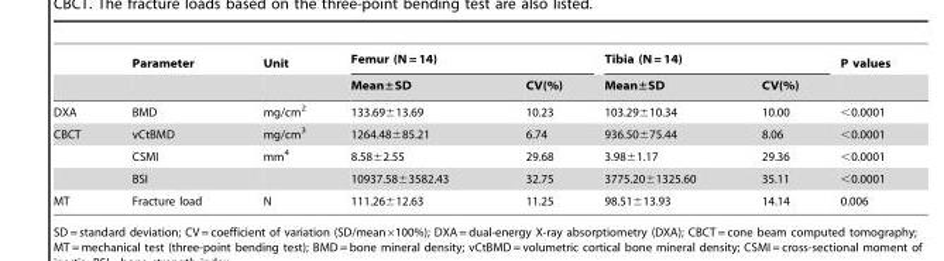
<table><thead><tr><td rowspan="2"></td><td rowspan="2">Parameter</td><td rowspan="2">Unit</td><td colspan="2">Femur (N = 14)</td><td colspan="2">Tibia (N = 14)</td><td rowspan="2">P values</td></tr><tr><td>Mean±SD</td><td>CV(%)</td><td>Mean±SD</td><td>CV(%)</td></tr></thead><tbody><tr><td>DXA</td><td>BMD</td><td>mg/cm<sup>2</sup></td><td>133.69±13.69</td><td>10.23</td><td>103.29±10.34</td><td>10.00</td><td>&lt;0.0001</td></tr><tr><td rowspan="3">CBCT</td><td>vCtBMD</td><td>mg/cm<sup>3</sup></td><td>1264.48±85.21</td><td>6.74</td><td>936.50±75.44</td><td>8.06</td><td>&lt;0.0001</td></tr><tr><td>CSMI</td><td>mm<sup>4</sup></td><td>8.58±2.55</td><td>29.68</td><td>3.98±1.17</td><td>29.36</td><td>&lt;0.0001</td></tr><tr><td>BSI</td><td></td><td>10937.58±3582.43</td><td>32.75</td><td>3775.20±1325.60</td><td>35.11</td><td>&lt;0.0001</td></tr><tr><td>MT</td><td>Fracture load</td><td>N</td><td>111.26±12.63</td><td>11.25</td><td>98.51±13.93</td><td>14.14</td><td>0.006</td></tr></tbody></table>